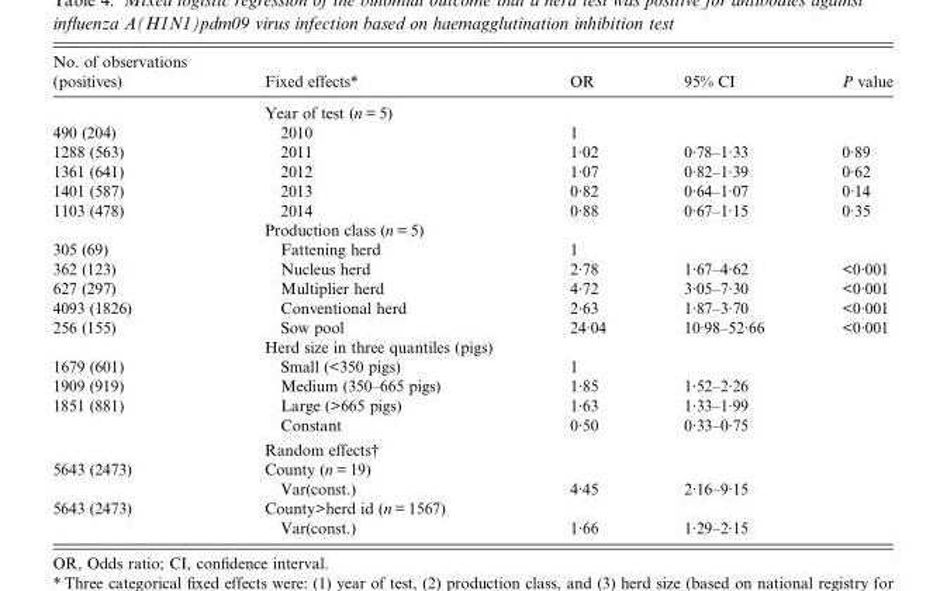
<table><thead><tr><td>No. of observations (positives)</td><td>Fixed effects*</td><td>OR</td><td>95% CI</td><td>P value</td></tr></thead><tbody><tr><td></td><td>Year of test (n = 5)</td><td></td><td></td><td></td></tr><tr><td>490 (204)</td><td>2010</td><td>1</td><td></td><td></td></tr><tr><td>1288 (563)</td><td>2011</td><td>1·02</td><td>0·78–1·33</td><td>0·89</td></tr><tr><td>1361 (641)</td><td>2012</td><td>1·07</td><td>0·82–1·39</td><td>0·62</td></tr><tr><td>1401 (587)</td><td>2013</td><td>0·82</td><td>0·64–1·07</td><td>0·14</td></tr><tr><td rowspan="2">1103 (478)</td><td>2014</td><td>0·88</td><td>0·67–1·15</td><td>0·35</td></tr><tr><td>Production class (n = 5)</td><td></td><td></td><td></td></tr><tr><td>305 (69)</td><td>Fattening herd</td><td>1</td><td></td><td></td></tr><tr><td>362 (123)</td><td>Nucleus herd</td><td>2·78</td><td>1·67–4·62</td><td>&lt;0·001</td></tr><tr><td>627 (297)</td><td>Multiplier herd</td><td>4·72</td><td>3·05–7·30</td><td>&lt;0·001</td></tr><tr><td>4093 (1826)</td><td>Conventional herd</td><td>2·63</td><td>1·87–3·70</td><td>&lt;0·001</td></tr><tr><td rowspan="2">256 (155)</td><td>Sow pool</td><td>24·04</td><td>10·98–52·66</td><td>&lt;0·001</td></tr><tr><td>Herd size in three quantiles (pigs)</td><td></td><td></td><td></td></tr><tr><td>1679 (601)</td><td>Small (&lt;350 pigs)</td><td>1</td><td></td><td></td></tr><tr><td>1909 (919)</td><td>Medium (350–665 pigs)</td><td>1·85</td><td>1·52–2·26</td><td></td></tr><tr><td rowspan="3">1851 (881)</td><td>Large (&gt;665 pigs)</td><td>1·63</td><td>1·33–1·99</td><td></td></tr><tr><td>Constant</td><td>0·50</td><td>0·33–0·75</td><td></td></tr><tr><td>Random effects†</td><td></td><td></td><td></td></tr><tr><td rowspan="2">5643 (2473)</td><td>County (n = 19)</td><td></td><td></td><td></td></tr><tr><td>Var(const.)</td><td>4·45</td><td>2·16–9·15</td><td></td></tr><tr><td rowspan="2">5643 (2473)</td><td>County&gt;herd id (n = 1567)</td><td></td><td></td><td></td></tr><tr><td>Var(const.)</td><td>1·66</td><td>1·29–2·15</td><td></td></tr></tbody></table>